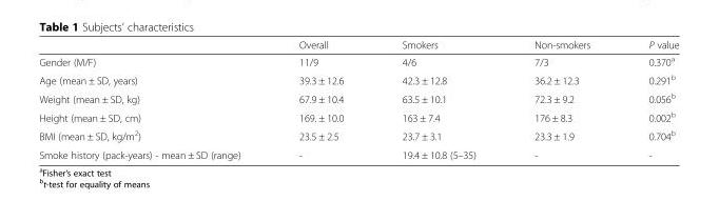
<table><thead><tr><td></td><td>Overall</td><td>Smokers</td><td>Non-smokers</td><td>P value</td></tr></thead><tbody><tr><td>Gender (M/F)</td><td>11/9</td><td>4/6</td><td>7/3</td><td>0.370<sup>a</sup></td></tr><tr><td>Age (mean ± SD, years)</td><td>39.3 ± 12.6</td><td>42.3 ± 12.8</td><td>36.2 ± 12.3</td><td>0.291<sup>b</sup></td></tr><tr><td>Weight (mean ± SD, kg)</td><td>67.9 ± 10.4</td><td>63.5 ± 10.1</td><td>72.3 ± 9.2</td><td>0.056<sup>b</sup></td></tr><tr><td>Height (mean ± SD, cm)</td><td>169. ± 10.0</td><td>163 ± 7.4</td><td>176 ± 8.3</td><td>0.002<sup>b</sup></td></tr><tr><td>BMI (mean ± SD, kg/m<sup>2</sup>)</td><td>23.5 ± 2.5</td><td>23.7 ± 3.1</td><td>23.3 ± 1.9</td><td>0.704<sup>b</sup></td></tr><tr><td>Smoke history (pack-years) - mean ± SD (range)</td><td>-</td><td>19.4 ± 10.8 (5–35)</td><td>-</td><td>-</td></tr></tbody></table>